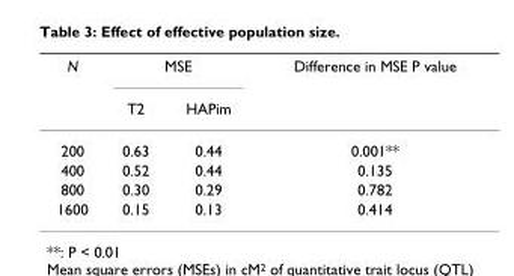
<table><thead><tr><td rowspan="2">N</td><td colspan="2">MSE</td><td rowspan="2">Difference in MSE P value</td></tr><tr><td>T2</td><td>HAPim</td></tr></thead><tbody><tr><td>200</td><td>0.63</td><td>0.44</td><td>0.001**</td></tr><tr><td>400</td><td>0.52</td><td>0.44</td><td>0.135</td></tr><tr><td>800</td><td>0.30</td><td>0.29</td><td>0.782</td></tr><tr><td>1600</td><td>0.15</td><td>0.13</td><td>0.414</td></tr></tbody></table>